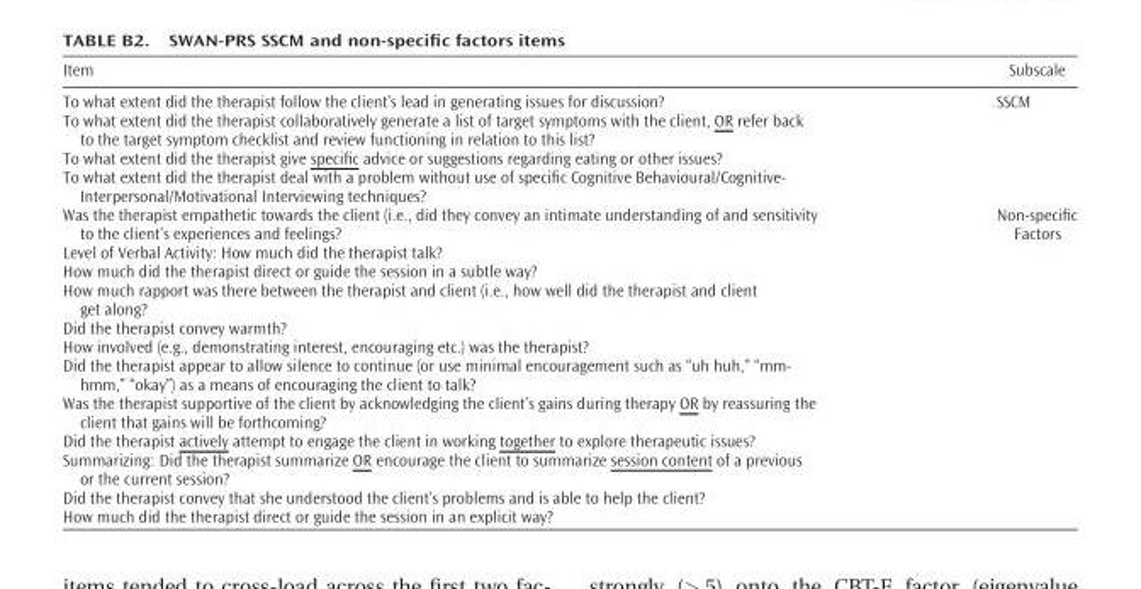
<table><thead><tr><td>Item</td><td>Subscale</td></tr></thead><tbody><tr><td>To what extent did the therapist follow the client’s lead in generating issues for discussion?</td><td>SSCM</td></tr><tr><td colspan="2">To what extent did the therapist collaboratively generate a list of target symptoms with the client, OR refer back to the target symptom checklist and review functioning in relation to this list?</td></tr><tr><td colspan="2">To what extent did the therapist give specific advice or suggestions regarding eating or other issues?</td></tr><tr><td colspan="2">To what extent did the therapist deal with a problem without use of specific Cognitive Behavioural/Cognitive- Interpersonal/Motivational Interviewing techniques?</td></tr><tr><td>Was the therapist empathetic towards the client (i.e., did they convey an intimate understanding of and sensitivity to the client’s experiences and feelings?</td><td>Non-specific Factors</td></tr><tr><td colspan="2">Level of Verbal Activity: How much did the therapist talk?</td></tr><tr><td colspan="2">How much did the therapist direct or guide the session in a subtle way?</td></tr><tr><td colspan="2">How much rapport was there between the therapist and client (i.e., how well did the therapist and client get along?</td></tr><tr><td colspan="2">Did the therapist convey warmth?</td></tr><tr><td colspan="2">How involved (e.g., demonstrating interest, encouraging etc.) was the therapist?</td></tr><tr><td colspan="2">Did the therapist appear to allow silence to continue (or use minimal encouragement such as “uh huh,” “mm- hmm,” “okay”) as a means of encouraging the client to talk?</td></tr><tr><td colspan="2">Was the therapist supportive of the client by acknowledging the client’s gains during therapy OR by reassuring the client that gains will be forthcoming?</td></tr><tr><td colspan="2">Did the therapist actively attempt to engage the client in working together to explore therapeutic issues?</td></tr><tr><td colspan="2">Summarizing: Did the therapist summarize OR encourage the client to summarize session content of a previous or the current session?</td></tr><tr><td colspan="2">Did the therapist convey that she understood the client’s problems and is able to help the client?</td></tr><tr><td>How much did the therapist direct or guide the session in an explicit way?</td><td></td></tr></tbody></table>